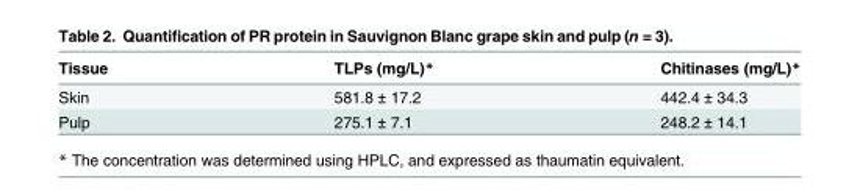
<table><thead><tr><td>Tissue</td><td>TLPs (mg/L)*</td><td>Chitinases (mg/L)*</td></tr></thead><tbody><tr><td>Skin</td><td>581.8 ± 17.2</td><td>442.4 ± 34.3</td></tr><tr><td>Pulp</td><td>275.1 ± 7.1</td><td>248.2 ± 14.1</td></tr></tbody></table>